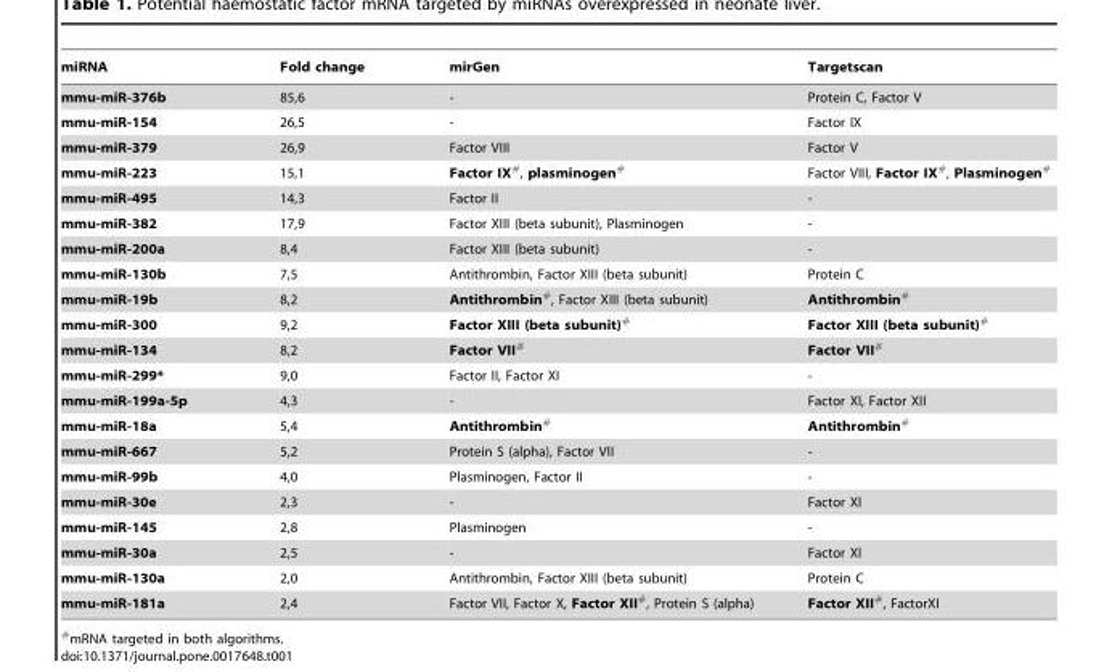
<table><thead><tr><td>miRNA</td><td>Fold change</td><td>mirGen</td><td>Targetscan</td></tr></thead><tbody><tr><td>mmu-miR-376b</td><td>85,6</td><td>-</td><td>Protein C, Factor V</td></tr><tr><td>mmu-miR-154</td><td>26,5</td><td>-</td><td>Factor IX</td></tr><tr><td>mmu-miR-379</td><td>26,9</td><td>Factor VIII</td><td>Factor V</td></tr><tr><td>mmu-miR-223</td><td>15,1</td><td>Factor IX#, plasminogen#</td><td>Factor VIII, Factor IX#, Plasminogen#</td></tr><tr><td>mmu-miR-495</td><td>14,3</td><td>Factor II</td><td>-</td></tr><tr><td>mmu-miR-382</td><td>17,9</td><td>Factor XIII (beta subunit), Plasminogen</td><td>-</td></tr><tr><td>mmu-miR-200a</td><td>8,4</td><td>Factor XIII (beta subunit)</td><td>-</td></tr><tr><td>mmu-miR-130b</td><td>7,5</td><td>Antithrombin, Factor XIII (beta subunit)</td><td>Protein C</td></tr><tr><td>mmu-miR-19b</td><td>8,2</td><td>Antithrombin#, Factor XIII (beta subunit)</td><td>Antithrombin#</td></tr><tr><td>mmu-miR-300</td><td>9,2</td><td>Factor XIII (beta subunit)#</td><td>Factor XIII (beta subunit)#</td></tr><tr><td>mmu-miR-134</td><td>8,2</td><td>Factor VII#</td><td>Factor VII#</td></tr><tr><td>mmu-miR-299*</td><td>9,0</td><td>Factor II, Factor XI</td><td>-</td></tr><tr><td>mmu-miR-199a-5p</td><td>4,3</td><td>-</td><td>Factor XI, Factor XII</td></tr><tr><td>mmu-miR-18a</td><td>5,4</td><td>Antithrombin#</td><td>Antithrombin#</td></tr><tr><td>mmu-miR-667</td><td>5,2</td><td>Protein S (alpha), Factor VII</td><td>-</td></tr><tr><td>mmu-miR-99b</td><td>4,0</td><td>Plasminogen, Factor II</td><td>-</td></tr><tr><td>mmu-miR-30e</td><td>2,3</td><td>-</td><td>Factor XI</td></tr><tr><td>mmu-miR-145</td><td>2,8</td><td>Plasminogen</td><td>-</td></tr><tr><td>mmu-miR-30a</td><td>2,5</td><td>-</td><td>Factor XI</td></tr><tr><td>mmu-miR-130a</td><td>2,0</td><td>Antithrombin, Factor XIII (beta subunit)</td><td>Protein C</td></tr><tr><td>mmu-miR-181a</td><td>2,4</td><td>Factor VII, Factor X, Factor XII#, Protein S (alpha)</td><td>Factor XII#, FactorXI</td></tr></tbody></table>